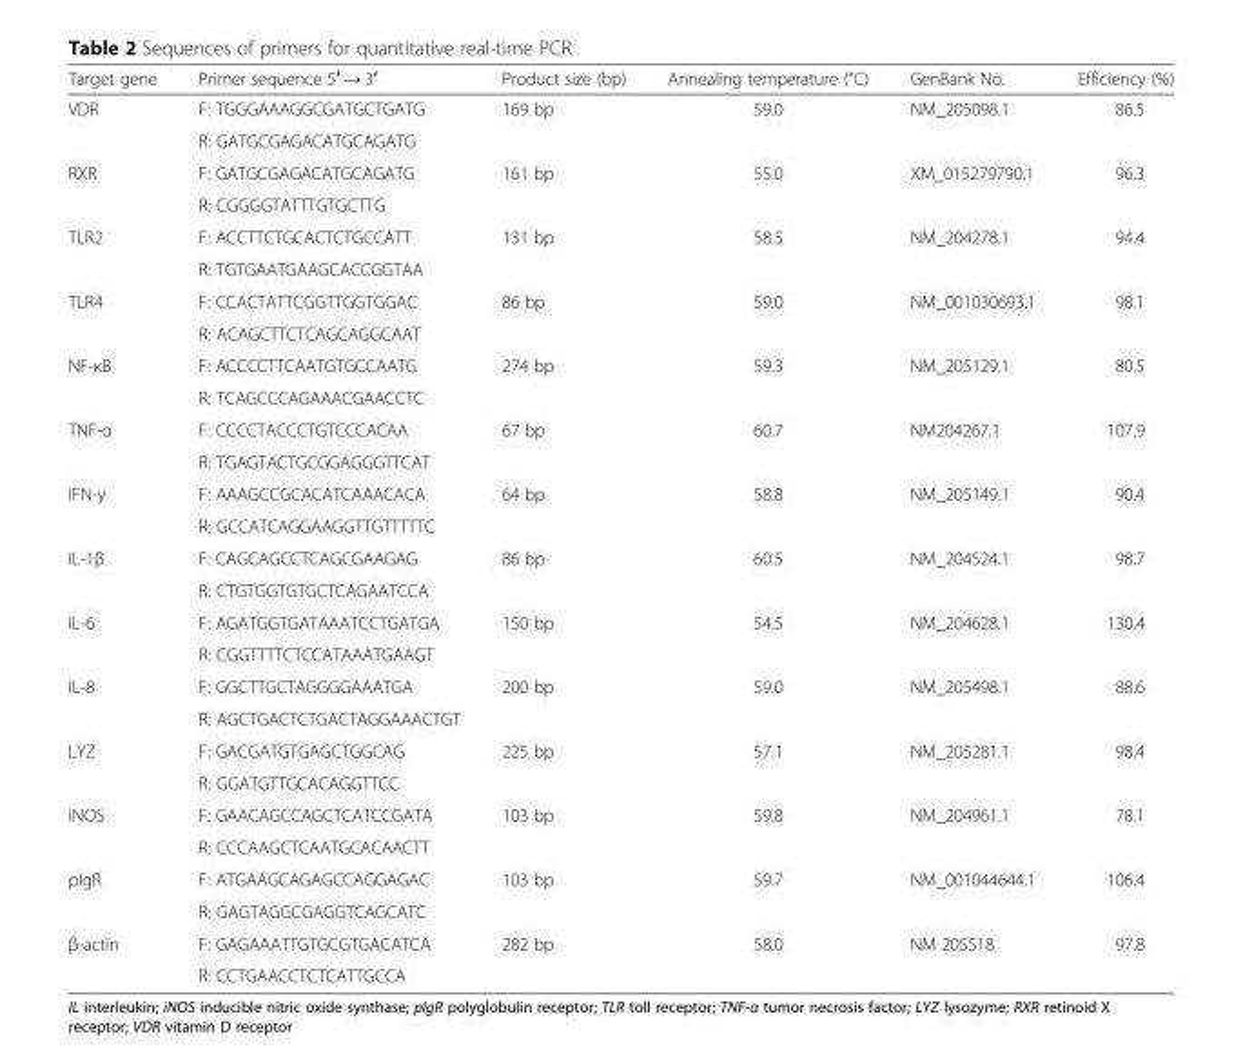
<table><thead><tr><td>Target gene</td><td>Primer sequence 5′ → 3′</td><td>Product size (bp)</td><td>Annealing temperature (°C)</td><td>GenBank No.</td><td>Efficiency (%)</td></tr></thead><tbody><tr><td rowspan="2">VDR</td><td>F: TGGGAAAGGCGATGCTGATG</td><td>169 bp</td><td>59.0</td><td>NM_205098.1</td><td>86.5</td></tr><tr><td>R: GATGCGAGACATGCAGATG</td><td></td><td></td><td></td><td></td></tr><tr><td rowspan="2">RXR</td><td>F: GATGCGAGACATGCAGATG</td><td>161 bp</td><td>55.0</td><td>XM_015279790.1</td><td>96.3</td></tr><tr><td>R: CGGGGTATTTGTGCTTG</td><td></td><td></td><td></td><td></td></tr><tr><td rowspan="2">TLR2</td><td>F: ACCTTCTGCACTCTGCCATT</td><td>131 bp</td><td>58.5</td><td>NM_204278.1</td><td>94.4</td></tr><tr><td>R: TGTGAATGAAGCACCGGTAA</td><td></td><td></td><td></td><td></td></tr><tr><td rowspan="2">TLR4</td><td>F: CCACTATTCGGTTGGTGGAC</td><td>86 bp</td><td>59.0</td><td>NM_001030693.1</td><td>98.1</td></tr><tr><td>R: ACAGCTTCTCAGCAGGCAAT</td><td></td><td></td><td></td><td></td></tr><tr><td rowspan="2">NF-κB</td><td>F: ACCCCTTCAATGTGCCAATG</td><td>274 bp</td><td>59.3</td><td>NM_205129.1</td><td>80.5</td></tr><tr><td>R: TCAGCCCAGAAACGAACCTC</td><td></td><td></td><td></td><td></td></tr><tr><td rowspan="2">TNF-α</td><td>F: CCCCTACCCTGTCCCACAA</td><td>67 bp</td><td>60.7</td><td>NM204267.1</td><td>107.9</td></tr><tr><td>R: TGAGTACTGCGGAGGGTTCAT</td><td></td><td></td><td></td><td></td></tr><tr><td rowspan="2">IFN-γ</td><td>F: AAAGCCGCACATCAAACACA</td><td>64 bp</td><td>58.8</td><td>NM_205149.1</td><td>90.4</td></tr><tr><td>R: GCCATCAGGAAGGTTGTTTTTC</td><td></td><td></td><td></td><td></td></tr><tr><td rowspan="2">IL-1β</td><td>F: CAGCAGCCTCAGCGAAGAG</td><td>86 bp</td><td>60.5</td><td>NM_204524.1</td><td>98.7</td></tr><tr><td>R: CTGTGGTGTGCTCAGAATCCA</td><td></td><td></td><td></td><td></td></tr><tr><td rowspan="2">IL-6</td><td>F: AGATGGTGATAAATCCTGATGA</td><td>150 bp</td><td>54.5</td><td>NM_204628.1</td><td>130.4</td></tr><tr><td>R: CGGTTTTCTCCATAAATGAAGT</td><td></td><td></td><td></td><td></td></tr><tr><td rowspan="2">IL-8</td><td>F: GGCTTGCTAGGGGAAATGA</td><td>200 bp</td><td>59.0</td><td>NM_205498.1</td><td>88.6</td></tr><tr><td>R: AGCTGACTCTGACTAGGAAACTGT</td><td></td><td></td><td></td><td></td></tr><tr><td rowspan="2">LYZ</td><td>F: GACGATGTGAGCTGGCAG</td><td>225 bp</td><td>57.1</td><td>NM_205281.1</td><td>98.4</td></tr><tr><td>R: GGATGTTGCACAGGTTCC</td><td></td><td></td><td></td><td></td></tr><tr><td rowspan="2">iNOS</td><td>F: GAACAGCCAGCTCATCCGATA</td><td>103 bp</td><td>59.8</td><td>NM_204961.1</td><td>78.1</td></tr><tr><td>R: CCCAAGCTCAATGCACAACTT</td><td></td><td></td><td></td><td></td></tr><tr><td rowspan="2">pIgR</td><td>F: ATGAAGCAGAGCCAGGAGAC</td><td>103 bp</td><td>59.7</td><td>NM_001044644.1</td><td>106.4</td></tr><tr><td>R: GAGTAGGCGAGGTCAGCATC</td><td></td><td></td><td></td><td></td></tr><tr><td rowspan="2">β-actin</td><td>F: GAGAAATTGTGCGTGACATCA</td><td>282 bp</td><td>58.0</td><td>NM 205518</td><td>97.8</td></tr><tr><td>R: CCTGAACCTCTCATTGCCA</td><td></td><td></td><td></td><td></td></tr></tbody></table>